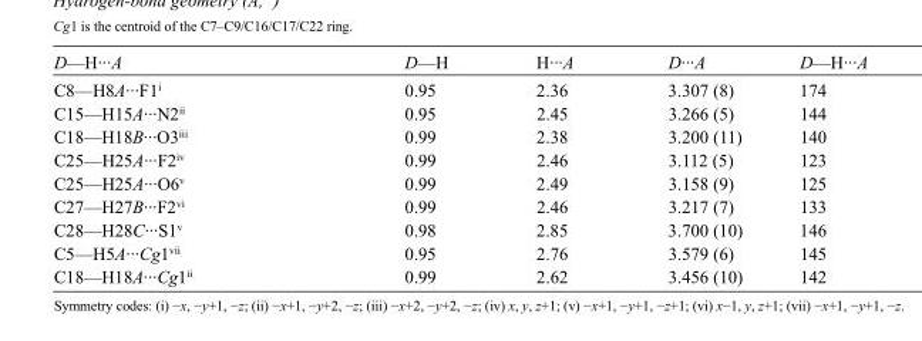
<table><tbody><tr><td>D—H···A</td><td>D—H</td><td>H···A</td><td>D···A</td><td>D—H···A</td></tr><tr><td>C8—H8A···F1<sup>i</sup></td><td>0.95</td><td>2.36</td><td>3.307 (8)</td><td>174</td></tr><tr><td>C15—H15A···N2<sup>ii</sup></td><td>0.95</td><td>2.45</td><td>3.266 (5)</td><td>144</td></tr><tr><td>C18—H18B···O3<sup>iii</sup></td><td>0.99</td><td>2.38</td><td>3.200 (11)</td><td>140</td></tr><tr><td>C25—H25A···F2<sup>iv</sup></td><td>0.99</td><td>2.46</td><td>3.112 (5)</td><td>123</td></tr><tr><td>C25—H25A···O6<sup>v</sup></td><td>0.99</td><td>2.49</td><td>3.158 (9)</td><td>125</td></tr><tr><td>C27—H27B···F2<sup>vi</sup></td><td>0.99</td><td>2.46</td><td>3.217 (7)</td><td>133</td></tr><tr><td>C28—H28C···S1<sup>v</sup></td><td>0.98</td><td>2.85</td><td>3.700 (10)</td><td>146</td></tr><tr><td>C5—H5A···Cg1<sup>vii</sup></td><td>0.95</td><td>2.76</td><td>3.579 (6)</td><td>145</td></tr><tr><td>C18—H18A···Cg1<sup>ii</sup></td><td>0.99</td><td>2.62</td><td>3.456 (10)</td><td>142</td></tr></tbody></table>